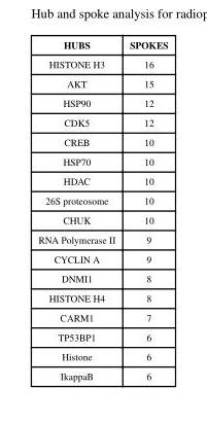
<table><thead><tr><td>HUBS</td><td>SPOKES</td></tr></thead><tbody><tr><td>HISTONE H3</td><td>16</td></tr><tr><td>AKT</td><td>15</td></tr><tr><td>HSP90</td><td>12</td></tr><tr><td>CDK5</td><td>12</td></tr><tr><td>CREB</td><td>10</td></tr><tr><td>HSP70</td><td>10</td></tr><tr><td>HDAC</td><td>10</td></tr><tr><td>26S proteosome</td><td>10</td></tr><tr><td>CHUK</td><td>10</td></tr><tr><td>RNA Polymerase II</td><td>9</td></tr><tr><td>CYCLIN A</td><td>9</td></tr><tr><td>DNMI1</td><td>8</td></tr><tr><td>HISTONE H4</td><td>8</td></tr><tr><td>CARM1</td><td>7</td></tr><tr><td>TP53BP1</td><td>6</td></tr><tr><td>Histone</td><td>6</td></tr><tr><td>IkappaB</td><td>6</td></tr></tbody></table>